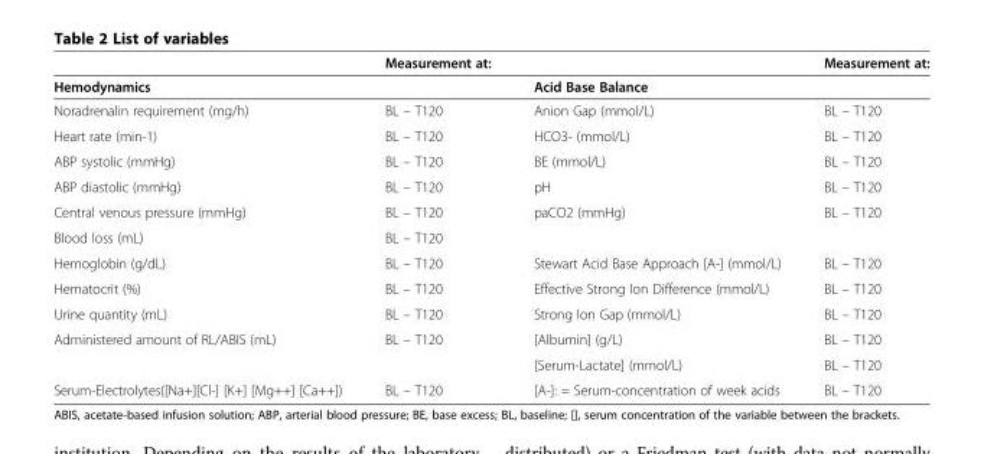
<table><thead><tr><td></td><td>Measurement at:</td><td></td><td>Measurement at:</td></tr></thead><tbody><tr><td>Hemodynamics</td><td></td><td>Acid Base Balance</td><td></td></tr><tr><td>Noradrenalin requirement (mg/h)</td><td>BL – T120</td><td>Anion Gap (mmol/L)</td><td>BL – T120</td></tr><tr><td>Heart rate (min-1)</td><td>BL – T120</td><td>HCO3- (mmol/L)</td><td>BL – T120</td></tr><tr><td>ABP systolic (mmHg)</td><td>BL – T120</td><td>BE (mmol/L)</td><td>BL – T120</td></tr><tr><td>ABP diastolic (mmHg)</td><td>BL – T120</td><td>pH</td><td>BL – T120</td></tr><tr><td>Central venous pressure (mmHg)</td><td>BL – T120</td><td>paCO2 (mmHg)</td><td>BL – T120</td></tr><tr><td>Blood loss (mL)</td><td>BL – T120</td><td></td><td></td></tr><tr><td>Hemoglobin (g/dL)</td><td>BL – T120</td><td>Stewart Acid Base Approach [A-] (mmol/L)</td><td>BL – T120</td></tr><tr><td>Hematocrit (%)</td><td>BL – T120</td><td>Effective Strong Ion Difference (mmol/L)</td><td>BL – T120</td></tr><tr><td>Urine quantity (mL)</td><td>BL – T120</td><td>Strong Ion Gap (mmol/L)</td><td>BL – T120</td></tr><tr><td rowspan="2">Administered amount of RL/ABIS (mL)</td><td>BL – T120</td><td>[Albumin] (g/L)</td><td>BL – T120</td></tr><tr><td></td><td>[Serum-Lactate] (mmol/L)</td><td>BL – T120</td></tr><tr><td>Serum-Electrolytes([Na+][Cl-] [K+] [Mg++] [Ca++])</td><td>BL – T120</td><td>[A-]: = Serum-concentration of week acids</td><td>BL – T120</td></tr></tbody></table>